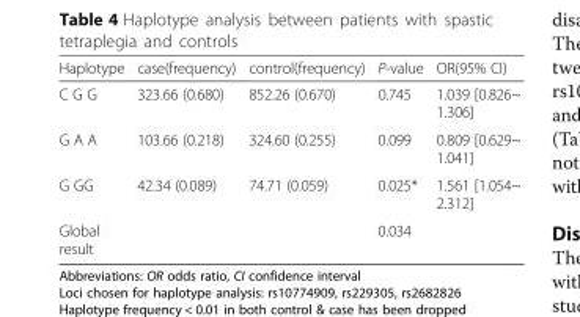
<table><thead><tr><td>Haplotype</td><td>case(frequency)</td><td>control(frequency)</td><td>P-value</td><td>OR(95% CI)</td></tr></thead><tbody><tr><td>C G G</td><td>323.66 (0.680)</td><td>852.26 (0.670)</td><td>0.745</td><td>1.039 [0.826~ 1.306]</td></tr><tr><td>G A A</td><td>103.66 (0.218)</td><td>324.60 (0.255)</td><td>0.099</td><td>0.809 [0.629~ 1.041]</td></tr><tr><td>G GG</td><td>42.34 (0.089)</td><td>74.71 (0.059)</td><td>0.025*</td><td>1.561 [1.054~ 2.312]</td></tr><tr><td>Global result</td><td></td><td></td><td>0.034</td><td></td></tr></tbody></table>